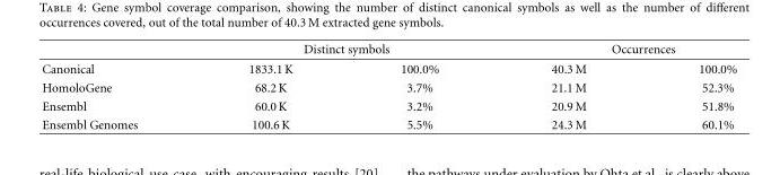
<table><thead><tr><td rowspan="2">Canonical</td><td colspan="2">Distinct symbols</td><td colspan="2">Occurrences</td></tr><tr><td>1833.1 K</td><td>100.0%</td><td>40.3 M</td><td>100.0%</td></tr></thead><tbody><tr><td>HomoloGene</td><td>68.2 K</td><td>3.7%</td><td>21.1 M</td><td>52.3%</td></tr><tr><td>Ensembl</td><td>60.0 K</td><td>3.2%</td><td>20.9 M</td><td>51.8%</td></tr><tr><td>Ensembl Genomes</td><td>100.6 K</td><td>5.5%</td><td>24.3 M</td><td>60.1%</td></tr></tbody></table>